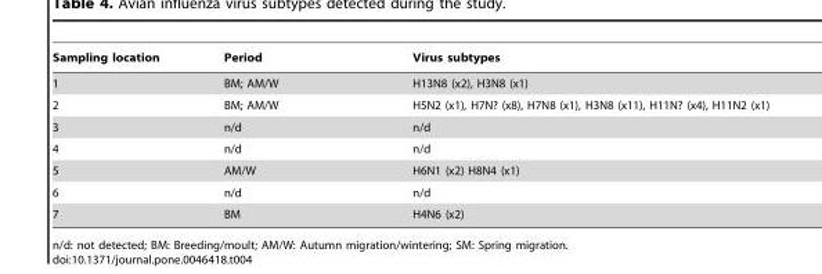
<table><thead><tr><td>Sampling location</td><td>Period</td><td>Virus subtypes</td></tr></thead><tbody><tr><td>1</td><td>BM; AM/W</td><td>H13N8 (x2), H3N8 (x1)</td></tr><tr><td>2</td><td>BM; AM/W</td><td>H5N2 (x1), H7N? (x8), H7N8 (x1), H3N8 (x11), H11N? (x4), H11N2 (x1)</td></tr><tr><td>3</td><td>n/d</td><td>n/d</td></tr><tr><td>4</td><td>n/d</td><td>n/d</td></tr><tr><td>5</td><td>AM/W</td><td>H6N1 (x2) H8N4 (x1)</td></tr><tr><td>6</td><td>n/d</td><td>n/d</td></tr><tr><td>7</td><td>BM</td><td>H4N6 (x2)</td></tr></tbody></table>